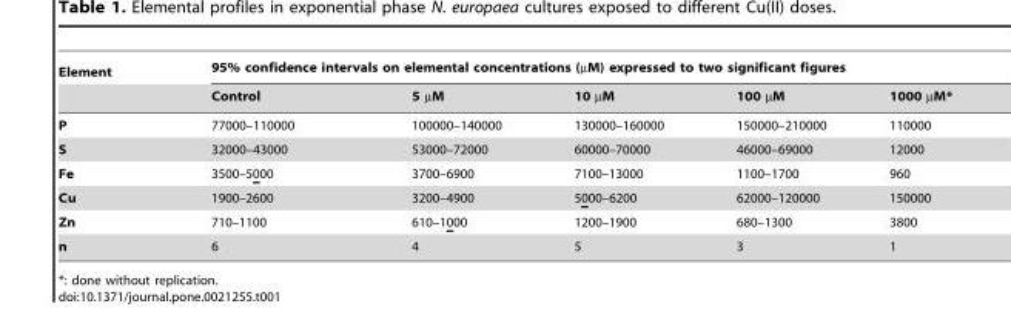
<table><thead><tr><td rowspan="2">Element</td><td colspan="5">95% confidence intervals on elemental concentrations (µM) expressed to two significant figures</td></tr><tr><td>Control</td><td>5 µM</td><td>10 µM</td><td>100 µM</td><td>1000 µM*</td></tr></thead><tbody><tr><td>P</td><td>77000–110000</td><td>100000–140000</td><td>130000–160000</td><td>150000–210000</td><td>110000</td></tr><tr><td>S</td><td>32000–43000</td><td>53000–72000</td><td>60000–70000</td><td>46000–69000</td><td>12000</td></tr><tr><td>Fe</td><td>3500–5000</td><td>3700–6900</td><td>7100–13000</td><td>1100–1700</td><td>960</td></tr><tr><td>Cu</td><td>1900–2600</td><td>3200–4900</td><td>5000–6200</td><td>62000–120000</td><td>150000</td></tr><tr><td>Zn</td><td>710–1100</td><td>610–1000</td><td>1200–1900</td><td>680–1300</td><td>3800</td></tr><tr><td>n</td><td>6</td><td>4</td><td>5</td><td>3</td><td>1</td></tr></tbody></table>